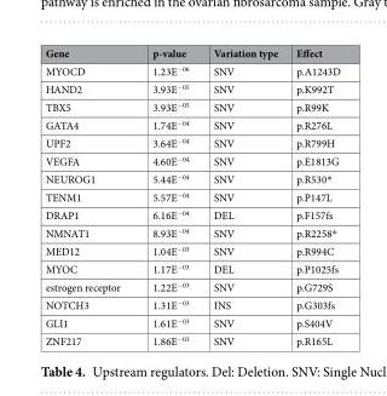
<table><thead><tr><td>Gene</td><td>p-value</td><td>Variation type</td><td>Effect</td></tr></thead><tbody><tr><td>MYOCD</td><td>1.23E<sup>−06</sup></td><td>SNV</td><td>p.A1243D</td></tr><tr><td>HAND2</td><td>3.93E<sup>−05</sup></td><td>SNV</td><td>p.K992T</td></tr><tr><td>TBX5</td><td>3.93E<sup>−05</sup></td><td>SNV</td><td>p.R99K</td></tr><tr><td>GATA4</td><td>1.74E<sup>−04</sup></td><td>SNV</td><td>p.R276L</td></tr><tr><td>UPF2</td><td>3.64E<sup>−04</sup></td><td>SNV</td><td>p.R799H</td></tr><tr><td>VEGFA</td><td>4.60E<sup>−04</sup></td><td>SNV</td><td>p.E1813G</td></tr><tr><td>NEUROG1</td><td>5.44E<sup>−04</sup></td><td>SNV</td><td>p.R530*</td></tr><tr><td>TENM1</td><td>5.57E<sup>−04</sup></td><td>SNV</td><td>p.P147L</td></tr><tr><td>DRAP1</td><td>6.16E<sup>−04</sup></td><td>DEL</td><td>p.F157fs</td></tr><tr><td>NMNAT1</td><td>8.93E<sup>−04</sup></td><td>SNV</td><td>p.R2258*</td></tr><tr><td>MED12</td><td>1.04E<sup>−03</sup></td><td>SNV</td><td>p.R994C</td></tr><tr><td>MYOC</td><td>1.17E<sup>−03</sup></td><td>DEL</td><td>p.P1025fs</td></tr><tr><td>estrogen receptor</td><td>1.22E<sup>−03</sup></td><td>SNV</td><td>p.G729S</td></tr><tr><td>NOTCH3</td><td>1.31E<sup>−03</sup></td><td>INS</td><td>p.G303fs</td></tr><tr><td>GLI1</td><td>1.61E<sup>−03</sup></td><td>SNV</td><td>p.S404V</td></tr><tr><td>ZNF217</td><td>1.86E<sup>−03</sup></td><td>SNV</td><td>p.R165L</td></tr></tbody></table>